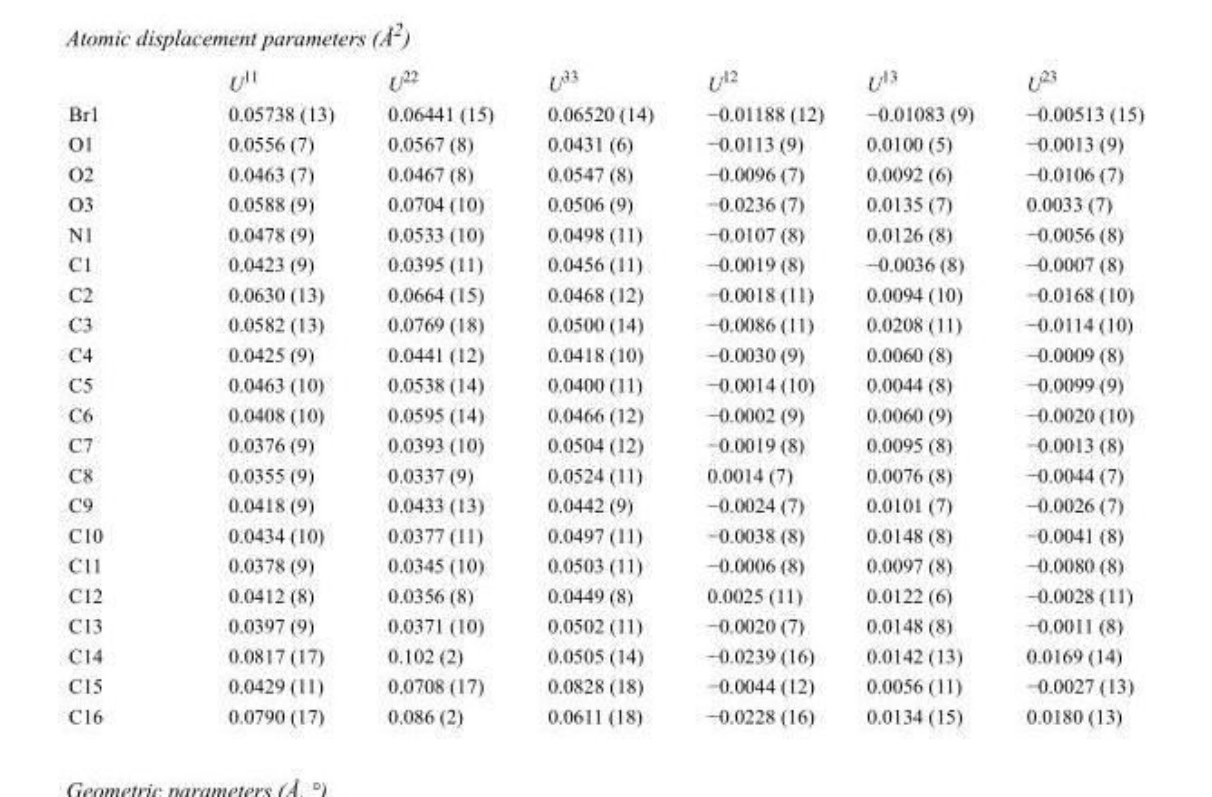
<table><thead><tr><td></td><td>U<sup>11</sup></td><td>U<sup>22</sup></td><td>U<sup>33</sup></td><td>U<sup>12</sup></td><td>U<sup>13</sup></td><td>U<sup>23</sup></td></tr></thead><tbody><tr><td>Br1</td><td>0.05738 (13)</td><td>0.06441 (15)</td><td>0.06520 (14)</td><td>−0.01188 (12)</td><td>−0.01083 (9)</td><td>−0.00513 (15)</td></tr><tr><td>O1</td><td>0.0556 (7)</td><td>0.0567 (8)</td><td>0.0431 (6)</td><td>−0.0113 (9)</td><td>0.0100 (5)</td><td>−0.0013 (9)</td></tr><tr><td>O2</td><td>0.0463 (7)</td><td>0.0467 (8)</td><td>0.0547 (8)</td><td>−0.0096 (7)</td><td>0.0092 (6)</td><td>−0.0106 (7)</td></tr><tr><td>O3</td><td>0.0588 (9)</td><td>0.0704 (10)</td><td>0.0506 (9)</td><td>−0.0236 (7)</td><td>0.0135 (7)</td><td>0.0033 (7)</td></tr><tr><td>N1</td><td>0.0478 (9)</td><td>0.0533 (10)</td><td>0.0498 (11)</td><td>−0.0107 (8)</td><td>0.0126 (8)</td><td>−0.0056 (8)</td></tr><tr><td>C1</td><td>0.0423 (9)</td><td>0.0395 (11)</td><td>0.0456 (11)</td><td>−0.0019 (8)</td><td>−0.0036 (8)</td><td>−0.0007 (8)</td></tr><tr><td>C2</td><td>0.0630 (13)</td><td>0.0664 (15)</td><td>0.0468 (12)</td><td>−0.0018 (11)</td><td>0.0094 (10)</td><td>−0.0168 (10)</td></tr><tr><td>C3</td><td>0.0582 (13)</td><td>0.0769 (18)</td><td>0.0500 (14)</td><td>−0.0086 (11)</td><td>0.0208 (11)</td><td>−0.0114 (10)</td></tr><tr><td>C4</td><td>0.0425 (9)</td><td>0.0441 (12)</td><td>0.0418 (10)</td><td>−0.0030 (9)</td><td>0.0060 (8)</td><td>−0.0009 (8)</td></tr><tr><td>C5</td><td>0.0463 (10)</td><td>0.0538 (14)</td><td>0.0400 (11)</td><td>−0.0014 (10)</td><td>0.0044 (8)</td><td>−0.0099 (9)</td></tr><tr><td>C6</td><td>0.0408 (10)</td><td>0.0595 (14)</td><td>0.0466 (12)</td><td>−0.0002 (9)</td><td>0.0060 (9)</td><td>−0.0020 (10)</td></tr><tr><td>C7</td><td>0.0376 (9)</td><td>0.0393 (10)</td><td>0.0504 (12)</td><td>−0.0019 (8)</td><td>0.0095 (8)</td><td>−0.0013 (8)</td></tr><tr><td>C8</td><td>0.0355 (9)</td><td>0.0337 (9)</td><td>0.0524 (11)</td><td>0.0014 (7)</td><td>0.0076 (8)</td><td>−0.0044 (7)</td></tr><tr><td>C9</td><td>0.0418 (9)</td><td>0.0433 (13)</td><td>0.0442 (9)</td><td>−0.0024 (7)</td><td>0.0101 (7)</td><td>−0.0026 (7)</td></tr><tr><td>C10</td><td>0.0434 (10)</td><td>0.0377 (11)</td><td>0.0497 (11)</td><td>−0.0038 (8)</td><td>0.0148 (8)</td><td>−0.0041 (8)</td></tr><tr><td>C11</td><td>0.0378 (9)</td><td>0.0345 (10)</td><td>0.0503 (11)</td><td>−0.0006 (8)</td><td>0.0097 (8)</td><td>−0.0080 (8)</td></tr><tr><td>C12</td><td>0.0412 (8)</td><td>0.0356 (8)</td><td>0.0449 (8)</td><td>0.0025 (11)</td><td>0.0122 (6)</td><td>−0.0028 (11)</td></tr><tr><td>C13</td><td>0.0397 (9)</td><td>0.0371 (10)</td><td>0.0502 (11)</td><td>−0.0020 (7)</td><td>0.0148 (8)</td><td>−0.0011 (8)</td></tr><tr><td>C14</td><td>0.0817 (17)</td><td>0.102 (2)</td><td>0.0505 (14)</td><td>−0.0239 (16)</td><td>0.0142 (13)</td><td>0.0169 (14)</td></tr><tr><td>C15</td><td>0.0429 (11)</td><td>0.0708 (17)</td><td>0.0828 (18)</td><td>−0.0044 (12)</td><td>0.0056 (11)</td><td>−0.0027 (13)</td></tr><tr><td>C16</td><td>0.0790 (17)</td><td>0.086 (2)</td><td>0.0611 (18)</td><td>−0.0228 (16)</td><td>0.0134 (15)</td><td>0.0180 (13)</td></tr></tbody></table>